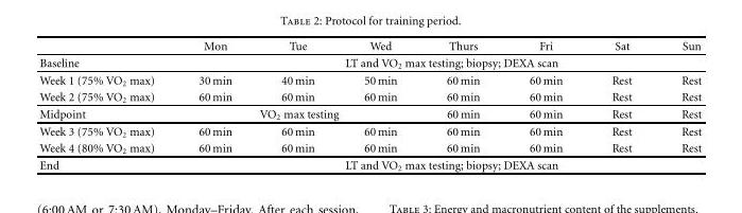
<table><thead><tr><td></td><td>Mon</td><td>Tue</td><td>Wed</td><td>Thurs</td><td>Fri</td><td>Sat</td><td>Sun</td></tr></thead><tbody><tr><td>Baseline</td><td colspan="7">LT and VO<sub>2</sub> max testing; biopsy; DEXA scan</td></tr><tr><td>Week 1 (75% VO<sub>2</sub> max)</td><td>30 min</td><td>40 min</td><td>50 min</td><td>60 min</td><td>60 min</td><td>Rest</td><td>Rest</td></tr><tr><td>Week 2 (75% VO<sub>2</sub> max)</td><td>60 min</td><td>60 min</td><td>60 min</td><td>60 min</td><td>60 min</td><td>Rest</td><td>Rest</td></tr><tr><td>Midpoint</td><td colspan="3">VO<sub>2</sub> max testing</td><td>60 min</td><td>60 min</td><td>Rest</td><td>Rest</td></tr><tr><td>Week 3 (75% VO<sub>2</sub> max)</td><td>60 min</td><td>60 min</td><td>60 min</td><td>60 min</td><td>60 min</td><td>Rest</td><td>Rest</td></tr><tr><td>Week 4 (80% VO<sub>2</sub> max)</td><td>60 min</td><td>60 min</td><td>60 min</td><td>60 min</td><td>60 min</td><td>Rest</td><td>Rest</td></tr><tr><td>End</td><td colspan="7">LT and VO<sub>2</sub> max testing; biopsy; DEXA scan</td></tr></tbody></table>